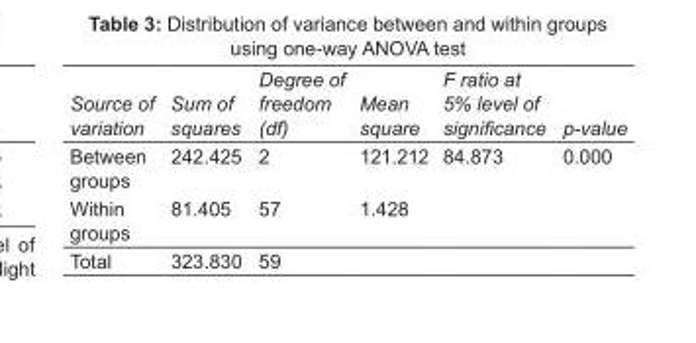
<table><tbody><tr><td>Source of variation</td><td>Sum of squares</td><td>Degree of freedom (df)</td><td>Mean square</td><td>F ratio at 5% level of significance</td><td>p-value</td></tr><tr><td>Between groups</td><td>242.425</td><td>2</td><td>121.212</td><td>84.873</td><td>0.000</td></tr><tr><td>Within groups</td><td>81.405</td><td>57</td><td>1.428</td><td></td><td></td></tr><tr><td>Total</td><td>323.830</td><td>59</td><td></td><td></td><td></td></tr></tbody></table>